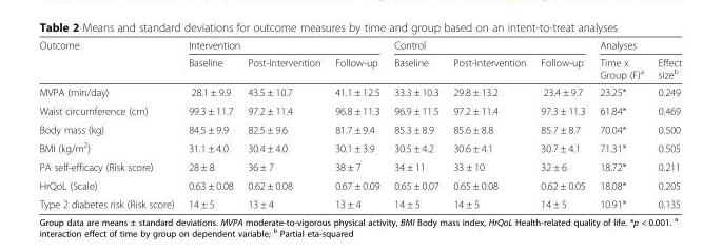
<table><thead><tr><td rowspan="2">Outcome</td><td colspan="3">Intervention</td><td colspan="3">Control</td><td colspan="2">Analyses</td></tr><tr><td>Baseline</td><td>Post-Intervention</td><td>Follow-up</td><td>Baseline</td><td>Post-Intervention</td><td>Follow-up</td><td>Time x Group (F)<sup>a</sup></td><td>Effect size<sup>b</sup></td></tr></thead><tbody><tr><td>MVPA (min/day)</td><td>28.1 ± 9.9</td><td>43.5 ± 10.7</td><td>41.1 ± 12.5</td><td>33.3 ± 10.3</td><td>29.8 ± 13.2</td><td>23.4 ± 9.7</td><td>23.25*</td><td>0.249</td></tr><tr><td>Waist circumference (cm)</td><td>99.3 ± 11.7</td><td>97.2 ± 11.4</td><td>96.8 ± 11.3</td><td>96.9 ± 11.5</td><td>97.2 ± 11.4</td><td>97.3 ± 11.3</td><td>61.84*</td><td>0.469</td></tr><tr><td>Body mass (kg)</td><td>84.5 ± 9.9</td><td>82.5 ± 9.6</td><td>81.7 ± 9.4</td><td>85.3 ± 8.9</td><td>85.6 ± 8.8</td><td>85.7 ± 8.7</td><td>70.04*</td><td>0.500</td></tr><tr><td>BMI (kg/m<sup>2</sup>)</td><td>31.1 ± 4.0</td><td>30.4 ± 4.0</td><td>30.1 ± 3.9</td><td>30.5 ± 4.2</td><td>30.6 ± 4.1</td><td>30.7 ± 4.1</td><td>71.31*</td><td>0.505</td></tr><tr><td>PA self-efficacy (Risk score)</td><td>28 ± 8</td><td>36 ± 7</td><td>38 ± 7</td><td>34 ± 11</td><td>33 ± 10</td><td>32 ± 6</td><td>18.72*</td><td>0.211</td></tr><tr><td>HrQoL (Scale)</td><td>0.63 ± 0.08</td><td>0.62 ± 0.08</td><td>0.67 ± 0.09</td><td>0.65 ± 0.07</td><td>0.65 ± 0.08</td><td>0.62 ± 0.05</td><td>18.08*</td><td>0.205</td></tr><tr><td>Type 2 diabetes risk (Risk score)</td><td>14 ± 5</td><td>13 ± 4</td><td>13 ± 4</td><td>14 ± 5</td><td>14 ± 5</td><td>14 ± 5</td><td>10.91*</td><td>0.135</td></tr></tbody></table>